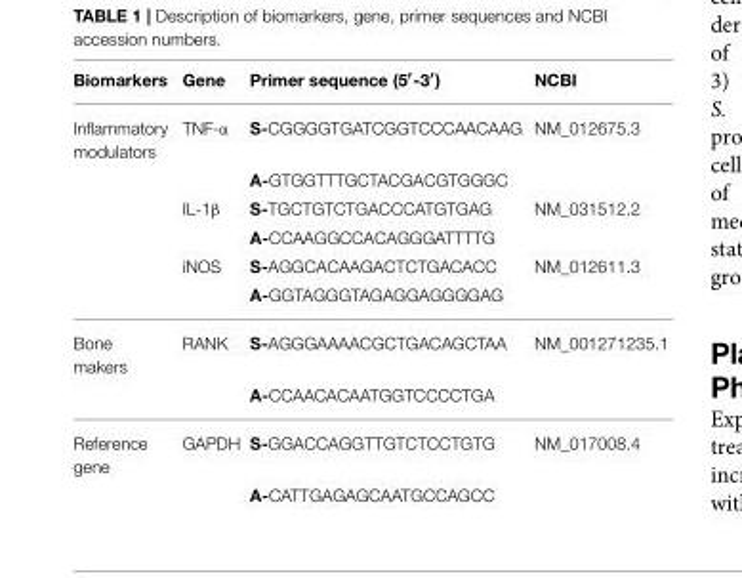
<table><thead><tr><td>Biomarkers</td><td>Gene</td><td>Primer sequence (5′-3′)</td><td>NCBI</td></tr></thead><tbody><tr><td rowspan="6">Inflammatory modulators</td><td>TNF-α</td><td>S-CGGGGTGATCGGTCCCAACAAG</td><td>NM_012675.3</td></tr><tr><td></td><td>A-GTGGTTTGCTACGACGTGGGC</td><td></td></tr><tr><td>IL-1β</td><td>S-TGCTGTCTGACCCATGTGAG</td><td>NM_031512.2</td></tr><tr><td></td><td>A-CCAAGGCCACAGGGATTTTG</td><td></td></tr><tr><td>iNOS</td><td>S-AGGCACAAGACTCTGACACC</td><td>NM_012611.3</td></tr><tr><td></td><td>A-GGTAGGGTAGAGGAGGGGAG</td><td></td></tr><tr><td rowspan="2">Bone makers</td><td>RANK</td><td>S-AGGGAAAACGCTGACAGCTAA</td><td>NM_001271235.1</td></tr><tr><td></td><td>A-CCAACACAATGGTCCCCTGA</td><td></td></tr><tr><td rowspan="2">Reference gene</td><td>GAPDH</td><td>S-GGACCAGGTTGTCTCCTGTG</td><td>NM_017008.4</td></tr><tr><td></td><td>A-CATTGAGAGCAATGCCAGCC</td><td></td></tr></tbody></table>